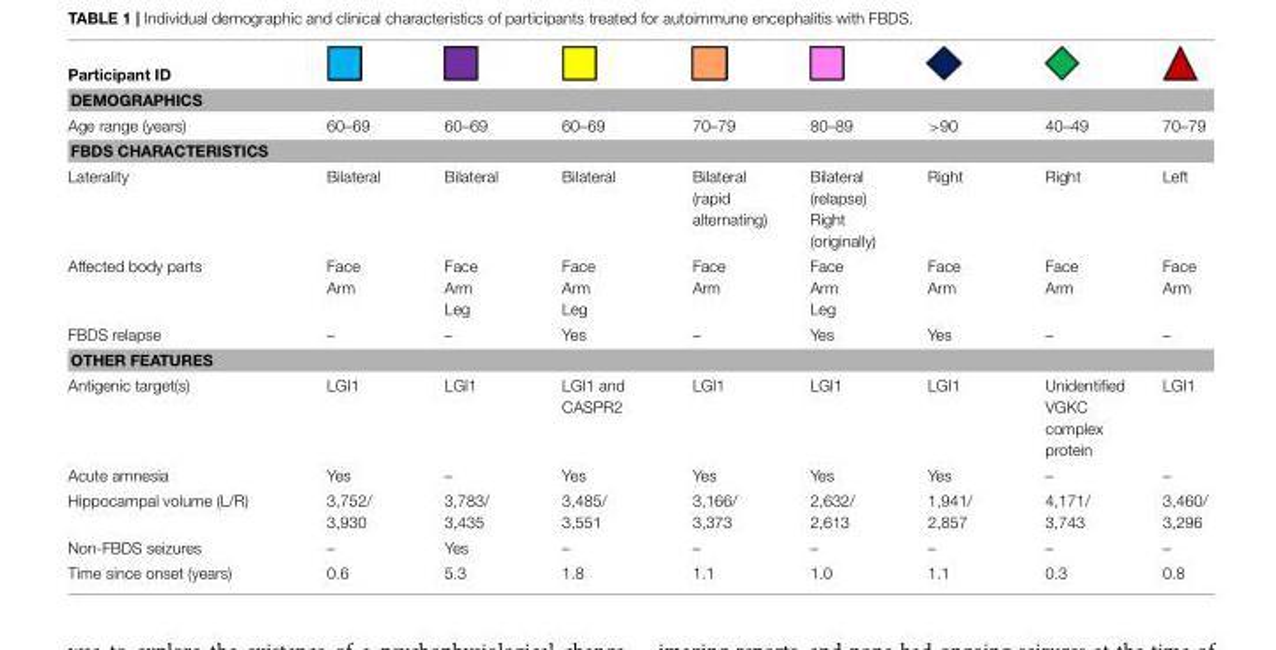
<table><thead><tr><td>Participant ID</td><td></td><td></td><td></td><td></td><td></td><td></td><td></td><td></td></tr></thead><tbody><tr><td colspan="9">DEMOGRAPHICS</td></tr><tr><td>Age range (years)</td><td>60–69</td><td>60–69</td><td>60–69</td><td>70–79</td><td>80–89</td><td>&gt;90</td><td>40–49</td><td>70–79</td></tr><tr><td colspan="9">FBDS CHARACTERISTICS</td></tr><tr><td>Laterality</td><td>Bilateral</td><td>Bilateral</td><td>Bilateral</td><td>Bilateral (rapid alternating)</td><td>Bilateral (relapse) Right (originally)</td><td>Right</td><td>Right</td><td>Left</td></tr><tr><td>Affected body parts</td><td>Face Arm</td><td>Face Arm Leg</td><td>Face Arm Leg</td><td>Face Arm</td><td>Face Arm Leg</td><td>Face Arm</td><td>Face Arm</td><td>Face Arm</td></tr><tr><td>FBDS relapse</td><td>–</td><td>–</td><td>Yes</td><td>–</td><td>Yes</td><td>Yes</td><td>–</td><td>–</td></tr><tr><td colspan="9">OTHER FEATURES</td></tr><tr><td>Antigenic target(s)</td><td>LGI1</td><td>LGI1</td><td>LGI1 and CASPR2</td><td>LGI1</td><td>LGI1</td><td>LGI1</td><td>Unidentified VGKC complex protein</td><td>LGI1</td></tr><tr><td>Acute amnesia</td><td>Yes</td><td>–</td><td>Yes</td><td>Yes</td><td>Yes</td><td>Yes</td><td>–</td><td>–</td></tr><tr><td>Hippocampal volume (L/R)</td><td>3,752/ 3,930</td><td>3,783/ 3,435</td><td>3,485/ 3,551</td><td>3,166/ 3,373</td><td>2,632/ 2,613</td><td>1,941/ 2,857</td><td>4,171/ 3,743</td><td>3,460/ 3,296</td></tr><tr><td>Non-FBDS seizures</td><td>–</td><td>Yes</td><td>–</td><td>–</td><td>–</td><td>–</td><td>–</td><td>–</td></tr><tr><td>Time since onset (years)</td><td>0.6</td><td>5.3</td><td>1.8</td><td>1.1</td><td>1.0</td><td>1.1</td><td>0.3</td><td>0.8</td></tr></tbody></table>